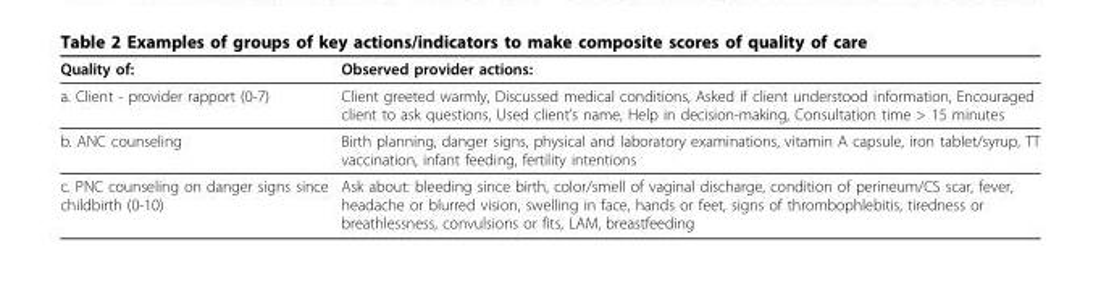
<table><thead><tr><td>Quality of:</td><td>Observed provider actions:</td></tr></thead><tbody><tr><td>a. Client - provider rapport (0-7)</td><td>Client greeted warmly, Discussed medical conditions, Asked if client understood information, Encouraged client to ask questions, Used client’s name, Help in decision-making, Consultation time &gt; 15 minutes</td></tr><tr><td>b. ANC counseling</td><td>Birth planning, danger signs, physical and laboratory examinations, vitamin A capsule, iron tablet/syrup, TT vaccination, infant feeding, fertility intentions</td></tr><tr><td>c. PNC counseling on danger signs since childbirth (0-10)</td><td>Ask about: bleeding since birth, color/smell of vaginal discharge, condition of perineum/CS scar, fever, headache or blurred vision, swelling in face, hands or feet, signs of thrombophlebitis, tiredness or breathlessness, convulsions or fits, LAM, breastfeeding</td></tr></tbody></table>